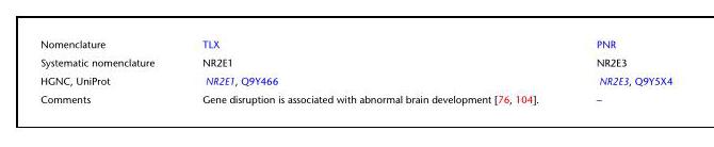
<table><tbody><tr><td>Nomenclature</td><td>TLX</td><td>PNR</td></tr><tr><td>Systematic nomenclature</td><td>NR2E1</td><td>NR2E3</td></tr><tr><td>HGNC, UniProt</td><td>NR2E1, Q9Y466</td><td>NR2E3, Q9Y5X4</td></tr><tr><td>Comments</td><td>Gene disruption is associated with abnormal brain development [76, 104].</td><td>–</td></tr></tbody></table>